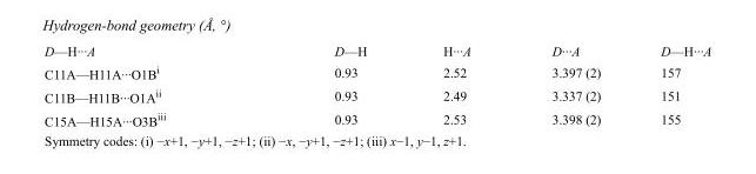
<table><tbody><tr><td>D—H···A</td><td>D—H</td><td>H···A</td><td>D···A</td><td>D—H···A</td></tr><tr><td>C11A—H11A···O1B<sup>i</sup></td><td>0.93</td><td>2.52</td><td>3.397 (2)</td><td>157</td></tr><tr><td>C11B—H11B···O1A<sup>ii</sup></td><td>0.93</td><td>2.49</td><td>3.337 (2)</td><td>151</td></tr><tr><td>C15A—H15A···O3B<sup>iii</sup></td><td>0.93</td><td>2.53</td><td>3.398 (2)</td><td>155</td></tr></tbody></table>